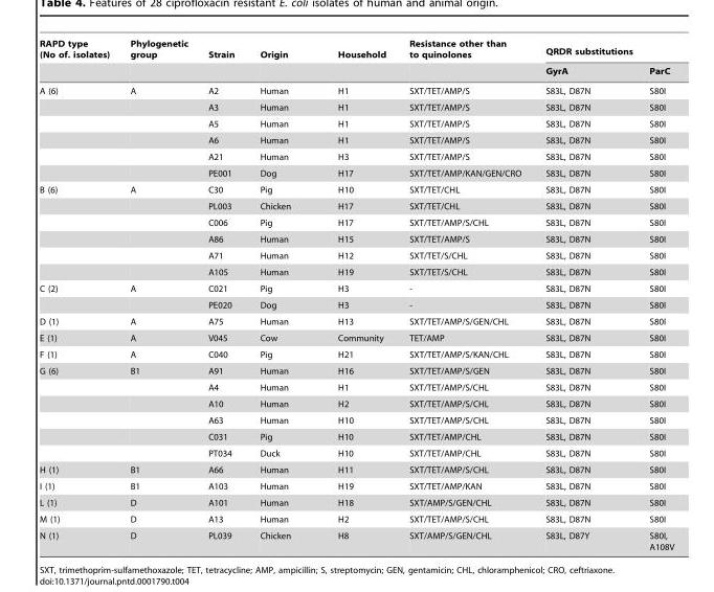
<table><thead><tr><td rowspan="2">RAPD type (No of. isolates)</td><td rowspan="2">Phylogenetic group</td><td rowspan="2">Strain</td><td rowspan="2">Origin</td><td rowspan="2">Household</td><td rowspan="2">Resistance other than to quinolones</td><td colspan="2">QRDR substitutions</td></tr><tr><td>GyrA</td><td>ParC</td></tr></thead><tbody><tr><td rowspan="6">A (6)</td><td>A</td><td>A2</td><td>Human</td><td>H1</td><td>SXT/TET/AMP/S</td><td>S83L, D87N</td><td>S80I</td></tr><tr><td></td><td>A3</td><td>Human</td><td>H1</td><td>SXT/TET/AMP/S</td><td>S83L, D87N</td><td>S80I</td></tr><tr><td></td><td>A5</td><td>Human</td><td>H1</td><td>SXT/TET/AMP/S</td><td>S83L, D87N</td><td>S80I</td></tr><tr><td></td><td>A6</td><td>Human</td><td>H1</td><td>SXT/TET/AMP/S</td><td>S83L, D87N</td><td>S80I</td></tr><tr><td></td><td>A21</td><td>Human</td><td>H3</td><td>SXT/TET/AMP/S</td><td>S83L, D87N</td><td>S80I</td></tr><tr><td></td><td>PE001</td><td>Dog</td><td>H17</td><td>SXT/TET/AMP/KAN/GEN/CRO</td><td>S83L, D87N</td><td>S80I</td></tr><tr><td rowspan="6">B (6)</td><td>A</td><td>C30</td><td>Pig</td><td>H10</td><td>SXT/TET/CHL</td><td>S83L, D87N</td><td>S80I</td></tr><tr><td></td><td>PL003</td><td>Chicken</td><td>H17</td><td>SXT/TET/CHL</td><td>S83L, D87N</td><td>S80I</td></tr><tr><td></td><td>C006</td><td>Pig</td><td>H17</td><td>SXT/TET/AMP/S/CHL</td><td>S83L, D87N</td><td>S80I</td></tr><tr><td></td><td>A86</td><td>Human</td><td>H15</td><td>SXT/TET/AMP/S</td><td>S83L, D87N</td><td>S80I</td></tr><tr><td></td><td>A71</td><td>Human</td><td>H12</td><td>SXT/TET/S/CHL</td><td>S83L, D87N</td><td>S80I</td></tr><tr><td></td><td>A105</td><td>Human</td><td>H19</td><td>SXT/TET/S/CHL</td><td>S83L, D87N</td><td>S80I</td></tr><tr><td rowspan="2">C (2)</td><td>A</td><td>C021</td><td>Pig</td><td>H3</td><td>-</td><td>S83L, D87N</td><td>S80I</td></tr><tr><td></td><td>PE020</td><td>Dog</td><td>H3</td><td>-</td><td>S83L, D87N</td><td>S80I</td></tr><tr><td>D (1)</td><td>A</td><td>A75</td><td>Human</td><td>H13</td><td>SXT/TET/AMP/S/GEN/CHL</td><td>S83L, D87N</td><td>S80I</td></tr><tr><td>E (1)</td><td>A</td><td>V045</td><td>Cow</td><td>Community</td><td>TET/AMP</td><td>S83L, D87N</td><td>S80I</td></tr><tr><td>F (1)</td><td>A</td><td>C040</td><td>Pig</td><td>H21</td><td>SXT/TET/AMP/S/KAN/CHL</td><td>S83L, D87N</td><td>S80I</td></tr><tr><td rowspan="6">G (6)</td><td>B1</td><td>A91</td><td>Human</td><td>H16</td><td>SXT/TET/AMP/S/GEN</td><td>S83L, D87N</td><td>S80I</td></tr><tr><td></td><td>A4</td><td>Human</td><td>H1</td><td>SXT/TET/AMP/S/CHL</td><td>S83L, D87N</td><td>S80I</td></tr><tr><td></td><td>A10</td><td>Human</td><td>H2</td><td>SXT/TET/AMP/S/CHL</td><td>S83L, D87N</td><td>S80I</td></tr><tr><td></td><td>A63</td><td>Human</td><td>H10</td><td>SXT/TET/AMP/S/CHL</td><td>S83L, D87N</td><td>S80I</td></tr><tr><td></td><td>C031</td><td>Pig</td><td>H10</td><td>SXT/TET/AMP/CHL</td><td>S83L, D87N</td><td>S80I</td></tr><tr><td></td><td>PT034</td><td>Duck</td><td>H10</td><td>SXT/TET/AMP/CHL</td><td>S83L, D87N</td><td>S80I</td></tr><tr><td>H (1)</td><td>B1</td><td>A66</td><td>Human</td><td>H11</td><td>SXT/TET/AMP/S/CHL</td><td>S83L, D87N</td><td>S80I</td></tr><tr><td>I (1)</td><td>B1</td><td>A103</td><td>Human</td><td>H19</td><td>SXT/TET/AMP/KAN</td><td>S83L, D87N</td><td>S80I</td></tr><tr><td>L (1)</td><td>D</td><td>A101</td><td>Human</td><td>H18</td><td>SXT/AMP/S/GEN/CHL</td><td>S83L, D87N</td><td>S80I</td></tr><tr><td>M (1)</td><td>D</td><td>A13</td><td>Human</td><td>H2</td><td>SXT/TET/AMP/S/CHL</td><td>S83L, D87N</td><td>S80I</td></tr><tr><td>N (1)</td><td>D</td><td>PL039</td><td>Chicken</td><td>H8</td><td>SXT/AMP/S/GEN/CHL</td><td>S83L, D87Y</td><td>S80I, A108V</td></tr></tbody></table>